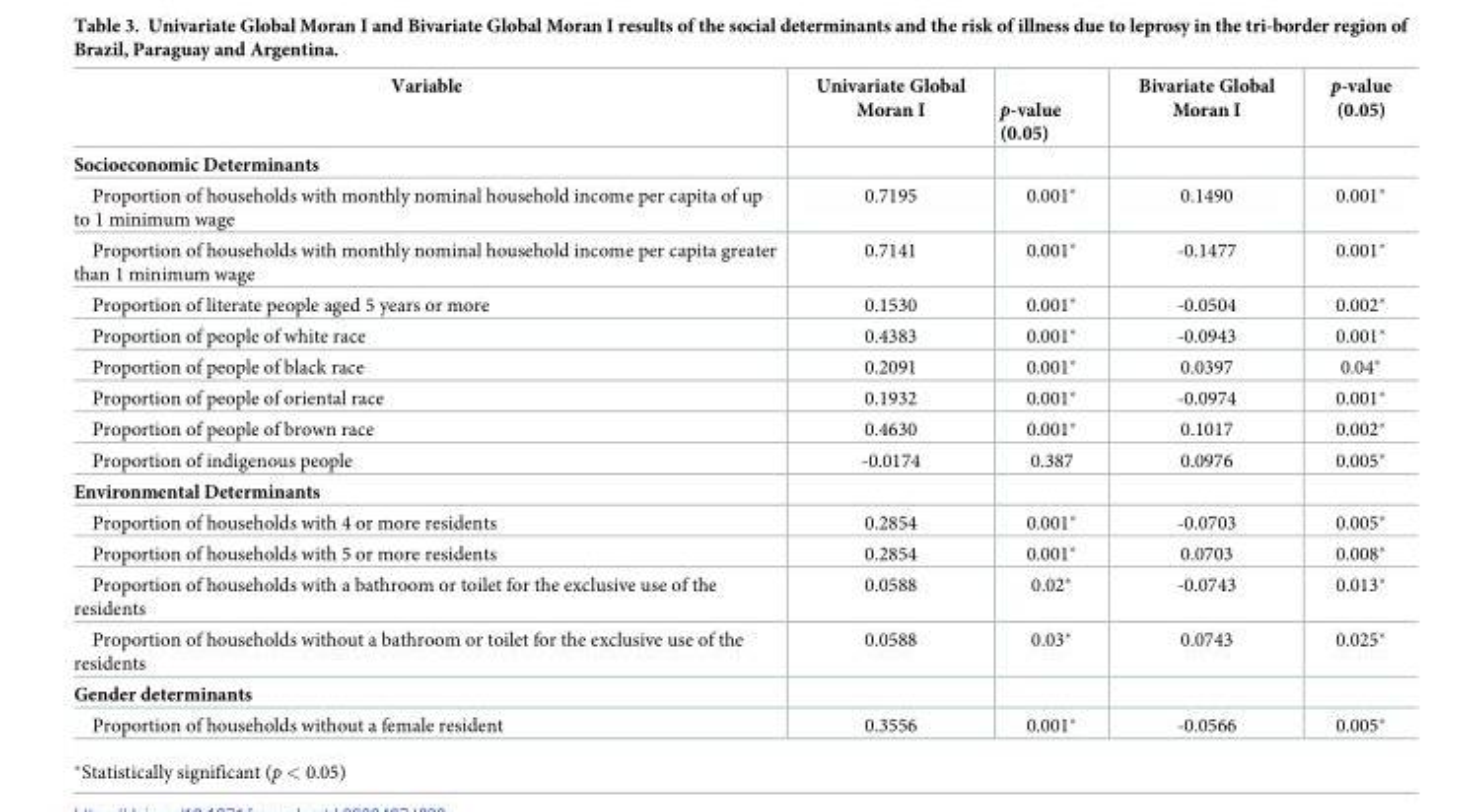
<table><thead><tr><td>Variable</td><td>Univariate Global Moran I</td><td>p-value (0.05)</td><td>Bivariate Global Moran I</td><td>p-value (0.05)</td></tr></thead><tbody><tr><td colspan="5">Socioeconomic Determinants</td></tr><tr><td>Proportion of households with monthly nominal household income per capita of up to 1 minimum wage</td><td>0.7195</td><td>0.001*</td><td>0.1490</td><td>0.001*</td></tr><tr><td>Proportion of households with monthly nominal household income per capita greater than 1 minimum wage</td><td>0.7141</td><td>0.001*</td><td>-0.1477</td><td>0.001*</td></tr><tr><td>Proportion of literate people aged 5 years or more</td><td>0.1530</td><td>0.001*</td><td>-0.0504</td><td>0.002*</td></tr><tr><td>Proportion of people of white race</td><td>0.4383</td><td>0.001*</td><td>-0.0943</td><td>0.001*</td></tr><tr><td>Proportion of people of black race</td><td>0.2091</td><td>0.001*</td><td>0.0397</td><td>0.04*</td></tr><tr><td>Proportion of people of oriental race</td><td>0.1932</td><td>0.001*</td><td>-0.0974</td><td>0.001*</td></tr><tr><td>Proportion of people of brown race</td><td>0.4630</td><td>0.001*</td><td>0.1017</td><td>0.002*</td></tr><tr><td>Proportion of indigenous people</td><td>-0.0174</td><td>0.387</td><td>0.0976</td><td>0.005*</td></tr><tr><td colspan="5">Environmental Determinants</td></tr><tr><td>Proportion of households with 4 or more residents</td><td>0.2854</td><td>0.001*</td><td>-0.0703</td><td>0.005*</td></tr><tr><td>Proportion of households with 5 or more residents</td><td>0.2854</td><td>0.001*</td><td>0.0703</td><td>0.008*</td></tr><tr><td>Proportion of households with a bathroom or toilet for the exclusive use of the residents</td><td>0.0588</td><td>0.02*</td><td>-0.0743</td><td>0.013*</td></tr><tr><td>Proportion of households without a bathroom or toilet for the exclusive use of the residents</td><td>0.0588</td><td>0.03*</td><td>0.0743</td><td>0.025*</td></tr><tr><td colspan="5">Gender determinants</td></tr><tr><td>Proportion of households without a female resident</td><td>0.3556</td><td>0.001*</td><td>-0.0566</td><td>0.005*</td></tr></tbody></table>